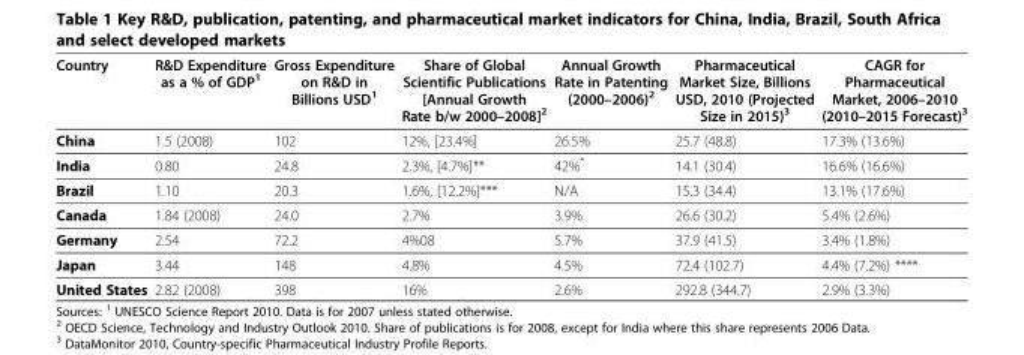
<table><thead><tr><td>Country</td><td>R&amp;D Expenditure as a % of GDP<sup>1</sup></td><td>Gross Expenditure on R&amp;D in Billions USD<sup>1</sup></td><td>Share of Global Scientific Publications [Annual Growth Rate b/w 2000–2008]<sup>2</sup></td><td>Annual Growth Rate in Patenting (2000–2006)<sup>2</sup></td><td>Pharmaceutical Market Size, Billions USD, 2010 (Projected Size in 2015)<sup>3</sup></td><td>CAGR for Pharmaceutical Market, 2006–2010 (2010–2015 Forecast)<sup>3</sup></td></tr></thead><tbody><tr><td>China</td><td>1.5 (2008)</td><td>102</td><td>12%, [23.4%]</td><td>26.5%</td><td>25.7 (48.8)</td><td>17.3% (13.6%)</td></tr><tr><td>India</td><td>0.80</td><td>24.8</td><td>2.3%, [4.7%]**</td><td>42%*</td><td>14.1 (30.4)</td><td>16.6% (16.6%)</td></tr><tr><td>Brazil</td><td>1.10</td><td>20.3</td><td>1.6%, [12.2%]***</td><td>N/A</td><td>15.3 (34.4)</td><td>13.1% (17.6%)</td></tr><tr><td>Canada</td><td>1.84 (2008)</td><td>24.0</td><td>2.7%</td><td>3.9%</td><td>26.6 (30.2)</td><td>5.4% (2.6%)</td></tr><tr><td>Germany</td><td>2.54</td><td>72.2</td><td>4%08</td><td>5.7%</td><td>37.9 (41.5)</td><td>3.4% (1.8%)</td></tr><tr><td>Japan</td><td>3.44</td><td>148</td><td>4.8%</td><td>4.5%</td><td>72.4 (102.7)</td><td>4.4% (7.2%) ****</td></tr><tr><td>United States</td><td>2.82 (2008)</td><td>398</td><td>16%</td><td>2.6%</td><td>292.8 (344.7)</td><td>2.9% (3.3%)</td></tr></tbody></table>